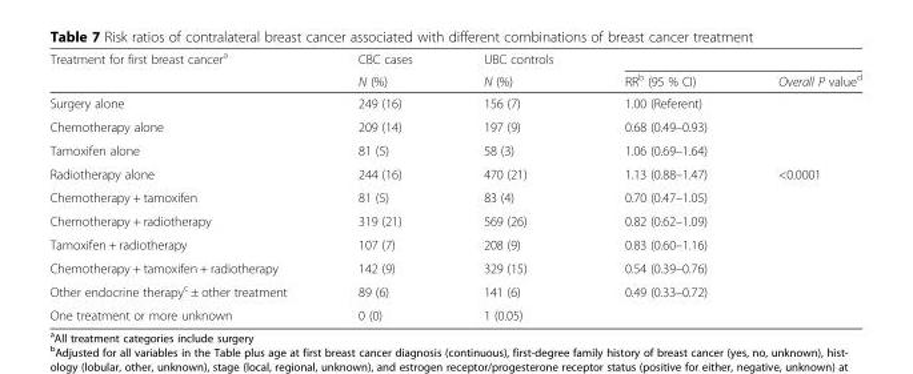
<table><thead><tr><td rowspan="2">Treatment for first breast cancer<sup>a</sup></td><td rowspan="2">CBC cases N (%)</td><td rowspan="2">UBC controls N (%)</td><td rowspan="2">RR<sup>b</sup> (95 % CI)</td><td rowspan="2">Overall P value<sup>d</sup></td></tr><tr></tr></thead><tbody><tr><td>Surgery alone</td><td>249 (16)</td><td>156 (7)</td><td>1.00 (Referent)</td><td></td></tr><tr><td>Chemotherapy alone</td><td>209 (14)</td><td>197 (9)</td><td>0.68 (0.49–0.93)</td><td></td></tr><tr><td>Tamoxifen alone</td><td>81 (5)</td><td>58 (3)</td><td>1.06 (0.69–1.64)</td><td></td></tr><tr><td>Radiotherapy alone</td><td>244 (16)</td><td>470 (21)</td><td>1.13 (0.88–1.47)</td><td>&lt;0.0001</td></tr><tr><td>Chemotherapy + tamoxifen</td><td>81 (5)</td><td>83 (4)</td><td>0.70 (0.47–1.05)</td><td></td></tr><tr><td>Chemotherapy + radiotherapy</td><td>319 (21)</td><td>569 (26)</td><td>0.82 (0.62–1.09)</td><td></td></tr><tr><td>Tamoxifen + radiotherapy</td><td>107 (7)</td><td>208 (9)</td><td>0.83 (0.60–1.16)</td><td></td></tr><tr><td>Chemotherapy + tamoxifen + radiotherapy</td><td>142 (9)</td><td>329 (15)</td><td>0.54 (0.39–0.76)</td><td></td></tr><tr><td>Other endocrine therapy<sup>c</sup> ± other treatment</td><td>89 (6)</td><td>141 (6)</td><td>0.49 (0.33–0.72)</td><td></td></tr><tr><td>One treatment or more unknown</td><td>0 (0)</td><td>1 (0.05)</td><td></td><td></td></tr></tbody></table>